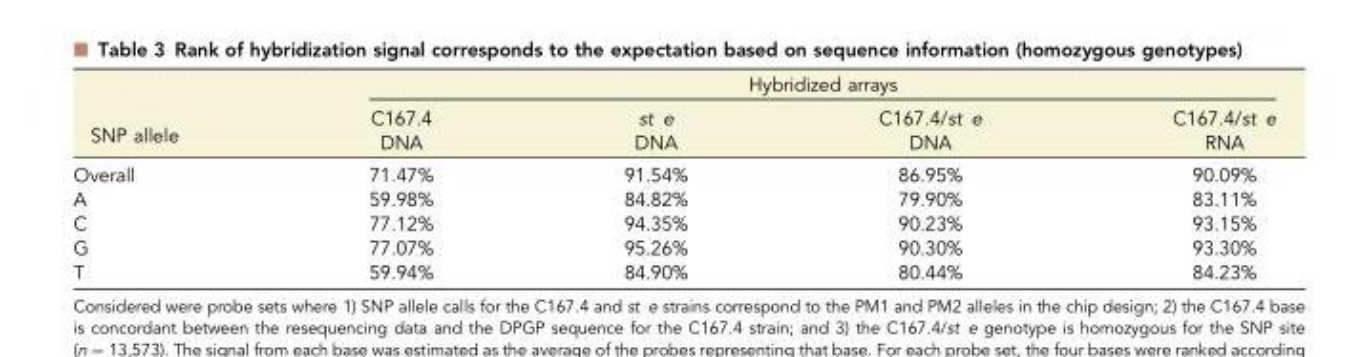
<table><thead><tr><td rowspan="2">SNP allele</td><td colspan="4">Hybridized arrays</td></tr><tr><td>C167.4 DNA</td><td>st e DNA</td><td>C167.4/st e DNA</td><td>C167.4/st e RNA</td></tr></thead><tbody><tr><td>Overall</td><td>71.47%</td><td>91.54%</td><td>86.95%</td><td>90.09%</td></tr><tr><td>A</td><td>59.98%</td><td>84.82%</td><td>79.90%</td><td>83.11%</td></tr><tr><td>C</td><td>77.12%</td><td>94.35%</td><td>90.23%</td><td>93.15%</td></tr><tr><td>G</td><td>77.07%</td><td>95.26%</td><td>90.30%</td><td>93.30%</td></tr><tr><td>T</td><td>59.94%</td><td>84.90%</td><td>80.44%</td><td>84.23%</td></tr></tbody></table>